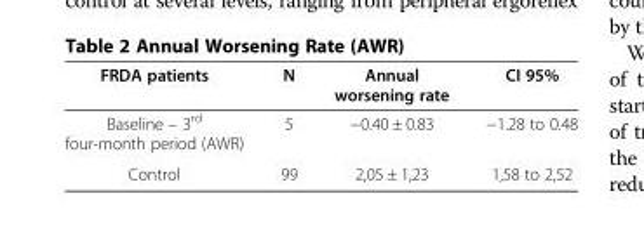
<table><thead><tr><td>FRDA patients</td><td>N</td><td>Annual worsening rate</td><td>CI 95%</td></tr></thead><tbody><tr><td>Baseline – 3<sup>rd</sup> four-month period (AWR)</td><td>5</td><td>−0.40 ± 0.83</td><td>−1.28 to 0.48</td></tr><tr><td>Control</td><td>99</td><td>2,05 ± 1,23</td><td>1,58 to 2,52</td></tr></tbody></table>